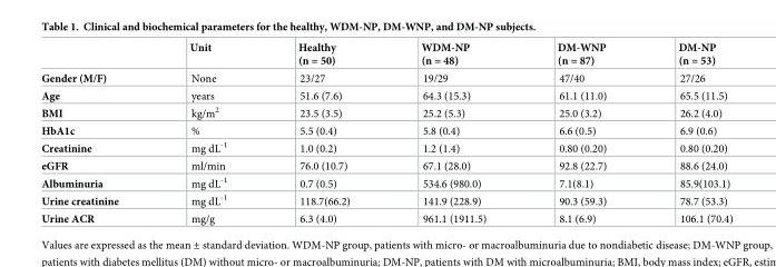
<table><thead><tr><td></td><td>Unit</td><td>Healthy (n = 50)</td><td>WDM-NP (n = 48)</td><td>DM-WNP (n = 87)</td><td>DM-NP (n = 53)</td></tr></thead><tbody><tr><td>Gender (M/F)</td><td>None</td><td>23/27</td><td>19/29</td><td>47/40</td><td>27/26</td></tr><tr><td>Age</td><td>years</td><td>51.6 (7.6)</td><td>64.3 (15.3)</td><td>61.1 (11.0)</td><td>65.5 (11.5)</td></tr><tr><td>BMI</td><td>kg/m<sup>2</sup></td><td>23.5 (3.5)</td><td>25.2 (5.3)</td><td>25.0 (3.2)</td><td>26.2 (4.0)</td></tr><tr><td>HbA1c</td><td>%</td><td>5.5 (0.4)</td><td>5.8 (0.4)</td><td>6.6 (0.5)</td><td>6.9 (0.6)</td></tr><tr><td>Creatinine</td><td>mg dL<sup>-1</sup></td><td>1.0 (0.2)</td><td>1.2 (1.4)</td><td>0.80 (0.20)</td><td>0.80 (0.20)</td></tr><tr><td>eGFR</td><td>ml/min</td><td>76.0 (10.7)</td><td>67.1 (28.0)</td><td>92.8 (22.7)</td><td>88.6 (24.0)</td></tr><tr><td>Albuminuria</td><td>mg dL<sup>-1</sup></td><td>0.7 (0.5)</td><td>534.6 (980.0)</td><td>7.1(8.1)</td><td>85.9(103.1)</td></tr><tr><td>Urine creatinine</td><td>mg dL<sup>-1</sup></td><td>118.7(66.2)</td><td>141.9 (228.9)</td><td>90.3 (59.3)</td><td>78.7 (53.3)</td></tr><tr><td>Urine ACR</td><td>mg/g</td><td>6.3 (4.0)</td><td>961.1 (1911.5)</td><td>8.1 (6.9)</td><td>106.1 (70.4)</td></tr></tbody></table>